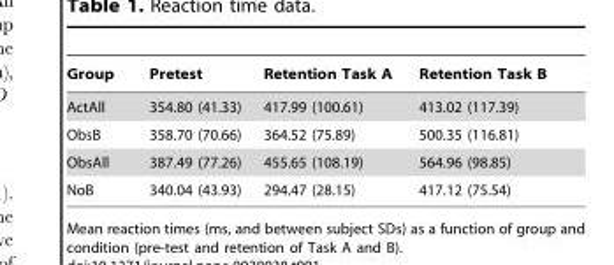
<table><thead><tr><td>Group</td><td>Pretest</td><td>Retention Task A</td><td>Retention Task B</td></tr></thead><tbody><tr><td>ActAll</td><td>354.80 (41.33)</td><td>417.99 (100.61)</td><td>413.02 (117.39)</td></tr><tr><td>ObsB</td><td>358.70 (70.66)</td><td>364.52 (75.89)</td><td>500.35 (116.81)</td></tr><tr><td>ObsAll</td><td>387.49 (77.26)</td><td>455.65 (108.19)</td><td>564.96 (98.85)</td></tr><tr><td>NoB</td><td>340.04 (43.93)</td><td>294.47 (28.15)</td><td>417.12 (75.54)</td></tr></tbody></table>